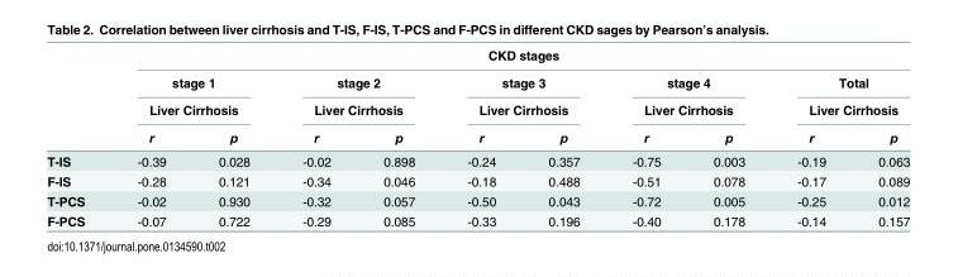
<table><thead><tr><td rowspan="4"></td><td colspan="10">CKD stages</td></tr><tr><td rowspan="2" colspan="2">stage 1 Liver Cirrhosis</td><td rowspan="2" colspan="2">stage 2 Liver Cirrhosis</td><td rowspan="2" colspan="2">stage 3 Liver Cirrhosis</td><td rowspan="2" colspan="2">stage 4 Liver Cirrhosis</td><td rowspan="2" colspan="2">Total Liver Cirrhosis</td></tr><tr></tr><tr><td>r</td><td>p</td><td>r</td><td>p</td><td>r</td><td>p</td><td>r</td><td>p</td><td>r</td><td>p</td></tr></thead><tbody><tr><td>T-IS</td><td>-0.39</td><td>0.028</td><td>-0.02</td><td>0.898</td><td>-0.24</td><td>0.357</td><td>-0.75</td><td>0.003</td><td>-0.19</td><td>0.063</td></tr><tr><td>F-IS</td><td>-0.28</td><td>0.121</td><td>-0.34</td><td>0.046</td><td>-0.18</td><td>0.488</td><td>-0.51</td><td>0.078</td><td>-0.17</td><td>0.089</td></tr><tr><td>T-PCS</td><td>-0.02</td><td>0.930</td><td>-0.32</td><td>0.057</td><td>-0.50</td><td>0.043</td><td>-0.72</td><td>0.005</td><td>-0.25</td><td>0.012</td></tr><tr><td>F-PCS</td><td>-0.07</td><td>0.722</td><td>-0.29</td><td>0.085</td><td>-0.33</td><td>0.196</td><td>-0.40</td><td>0.178</td><td>-0.14</td><td>0.157</td></tr></tbody></table>